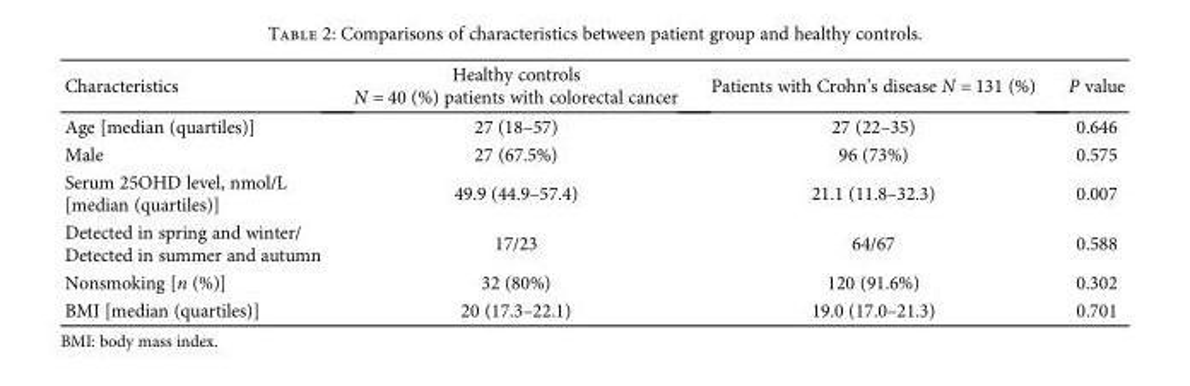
<table><thead><tr><td>Characteristics</td><td>Healthy controls N = 40 (%) patients with colorectal cancer</td><td>Patients with Crohn’s disease N = 131 (%)</td><td>P value</td></tr></thead><tbody><tr><td>Age [median (quartiles)]</td><td>27 (18–57)</td><td>27 (22–35)</td><td>0.646</td></tr><tr><td>Male</td><td>27 (67.5%)</td><td>96 (73%)</td><td>0.575</td></tr><tr><td>Serum 25OHD level, nmol/L [median (quartiles)]</td><td>49.9 (44.9–57.4)</td><td>21.1 (11.8–32.3)</td><td>0.007</td></tr><tr><td>Detected in spring and winter/ Detected in summer and autumn</td><td>17/23</td><td>64/67</td><td>0.588</td></tr><tr><td>Nonsmoking [n (%)]</td><td>32 (80%)</td><td>120 (91.6%)</td><td>0.302</td></tr><tr><td>BMI [median (quartiles)]</td><td>20 (17.3–22.1)</td><td>19.0 (17.0–21.3)</td><td>0.701</td></tr></tbody></table>